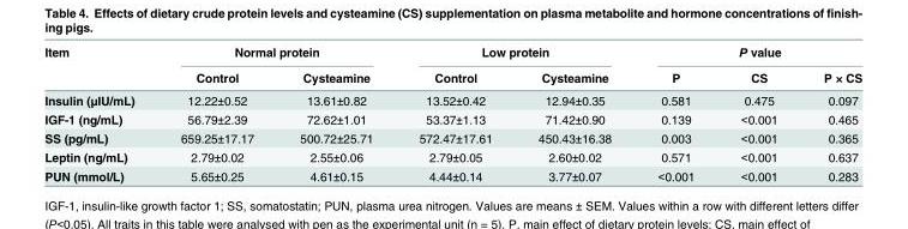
<table><thead><tr><td rowspan="2">Item</td><td colspan="2">Normal protein</td><td colspan="2">Low protein</td><td colspan="3">P value</td></tr><tr><td>Control</td><td>Cysteamine</td><td>Control</td><td>Cysteamine</td><td>P</td><td>CS</td><td>P × CS</td></tr></thead><tbody><tr><td>Insulin (μIU/mL)</td><td>12.22±0.52</td><td>13.61±0.82</td><td>13.52±0.42</td><td>12.94±0.35</td><td>0.581</td><td>0.475</td><td>0.097</td></tr><tr><td>IGF-1 (ng/mL)</td><td>56.79±2.39</td><td>72.62±1.01</td><td>53.37±1.13</td><td>71.42±0.90</td><td>0.139</td><td>&lt;0.001</td><td>0.465</td></tr><tr><td>SS (pg/mL)</td><td>659.25±17.17</td><td>500.72±25.71</td><td>572.47±17.61</td><td>450.43±16.38</td><td>0.003</td><td>&lt;0.001</td><td>0.365</td></tr><tr><td>Leptin (ng/mL)</td><td>2.79±0.02</td><td>2.55±0.06</td><td>2.79±0.05</td><td>2.60±0.02</td><td>0.571</td><td>&lt;0.001</td><td>0.637</td></tr><tr><td>PUN (mmol/L)</td><td>5.65±0.25</td><td>4.61±0.15</td><td>4.44±0.14</td><td>3.77±0.07</td><td>&lt;0.001</td><td>&lt;0.001</td><td>0.283</td></tr></tbody></table>